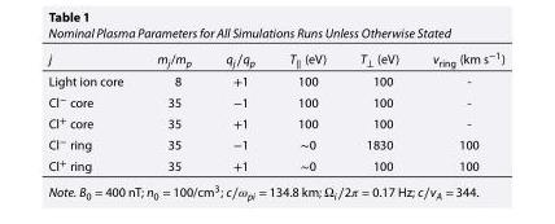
<table><thead><tr><td>j</td><td>m<sub>j</sub>/m<sub>p</sub></td><td>qj∕qp</td><td>T<sub>∥</sub> (eV)</td><td>T⟂ (eV)</td><td>v<sub>ring</sub> (km s<sup>−1</sup>)</td></tr></thead><tbody><tr><td>Light ion core</td><td>8</td><td>+1</td><td>100</td><td>100</td><td>-</td></tr><tr><td>Cl<sup>−</sup> core</td><td>35</td><td>−1</td><td>100</td><td>100</td><td>-</td></tr><tr><td>Cl<sup>+</sup> core</td><td>35</td><td>+1</td><td>100</td><td>100</td><td>-</td></tr><tr><td>Cl<sup>−</sup> ring</td><td>35</td><td>−1</td><td>∼0</td><td>1830</td><td>100</td></tr><tr><td>Cl<sup>+</sup> ring</td><td>35</td><td>+1</td><td>∼0</td><td>100</td><td>100</td></tr></tbody></table>